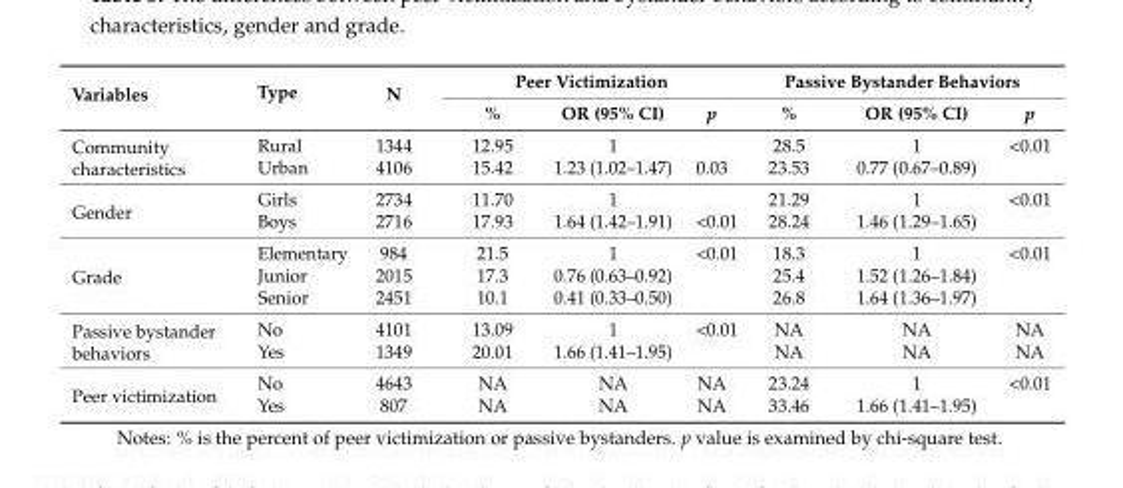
<table><thead><tr><td rowspan="2">Variables</td><td rowspan="2">Type</td><td rowspan="2">N</td><td colspan="3">Peer Victimization</td><td colspan="3">Passive Bystander Behaviors</td></tr><tr><td>%</td><td>OR (95% CI)</td><td>p</td><td>%</td><td>OR (95% CI)</td><td>p</td></tr></thead><tbody><tr><td rowspan="2">Community characteristics</td><td>Rural</td><td>1344</td><td>12.95</td><td>1</td><td></td><td>28.5</td><td>1</td><td>&lt;0.01</td></tr><tr><td>Urban</td><td>4106</td><td>15.42</td><td>1.23 (1.02–1.47)</td><td>0.03</td><td>23.53</td><td>0.77 (0.67–0.89)</td><td></td></tr><tr><td rowspan="2">Gender</td><td>Girls</td><td>2734</td><td>11.70</td><td>1</td><td></td><td>21.29</td><td>1</td><td>&lt;0.01</td></tr><tr><td>Boys</td><td>2716</td><td>17.93</td><td>1.64 (1.42–1.91)</td><td>&lt;0.01</td><td>28.24</td><td>1.46 (1.29–1.65)</td><td></td></tr><tr><td rowspan="3">Grade</td><td>Elementary</td><td>984</td><td>21.5</td><td>1</td><td>&lt;0.01</td><td>18.3</td><td>1</td><td>&lt;0.01</td></tr><tr><td>Junior</td><td>2015</td><td>17.3</td><td>0.76 (0.63–0.92)</td><td></td><td>25.4</td><td>1.52 (1.26–1.84)</td><td></td></tr><tr><td>Senior</td><td>2451</td><td>10.1</td><td>0.41 (0.33–0.50)</td><td></td><td>26.8</td><td>1.64 (1.36–1.97)</td><td></td></tr><tr><td rowspan="2">Passive bystander behaviors</td><td>No</td><td>4101</td><td>13.09</td><td>1</td><td>&lt;0.01</td><td>NA</td><td>NA</td><td>NA</td></tr><tr><td>Yes</td><td>1349</td><td>20.01</td><td>1.66 (1.41–1.95)</td><td></td><td>NA</td><td>NA</td><td>NA</td></tr><tr><td rowspan="2">Peer victimization</td><td>No</td><td>4643</td><td>NA</td><td>NA</td><td>NA</td><td>23.24</td><td>1</td><td>&lt;0.01</td></tr><tr><td>Yes</td><td>807</td><td>NA</td><td>NA</td><td>NA</td><td>33.46</td><td>1.66 (1.41–1.95)</td><td></td></tr></tbody></table>